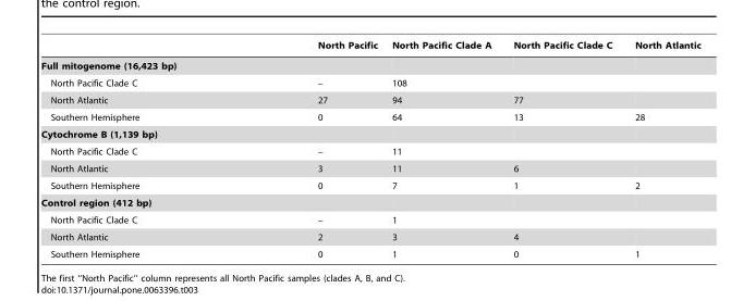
<table><thead><tr><td></td><td>North Pacific</td><td>North Pacific Clade A</td><td>North Pacific Clade C</td><td>North Atlantic</td></tr></thead><tbody><tr><td colspan="5">Full mitogenome (16,423 bp)</td></tr><tr><td>North Pacific Clade C</td><td>–</td><td>108</td><td></td><td></td></tr><tr><td>North Atlantic</td><td>27</td><td>94</td><td>77</td><td></td></tr><tr><td>Southern Hemisphere</td><td>0</td><td>64</td><td>13</td><td>28</td></tr><tr><td colspan="5">Cytochrome B (1,139 bp)</td></tr><tr><td>North Pacific Clade C</td><td>–</td><td>11</td><td></td><td></td></tr><tr><td>North Atlantic</td><td>3</td><td>11</td><td>6</td><td></td></tr><tr><td>Southern Hemisphere</td><td>0</td><td>7</td><td>1</td><td>2</td></tr><tr><td colspan="5">Control region (412 bp)</td></tr><tr><td>North Pacific Clade C</td><td>–</td><td>1</td><td></td><td></td></tr><tr><td>North Atlantic</td><td>2</td><td>3</td><td>4</td><td></td></tr><tr><td>Southern Hemisphere</td><td>0</td><td>1</td><td>0</td><td>1</td></tr></tbody></table>